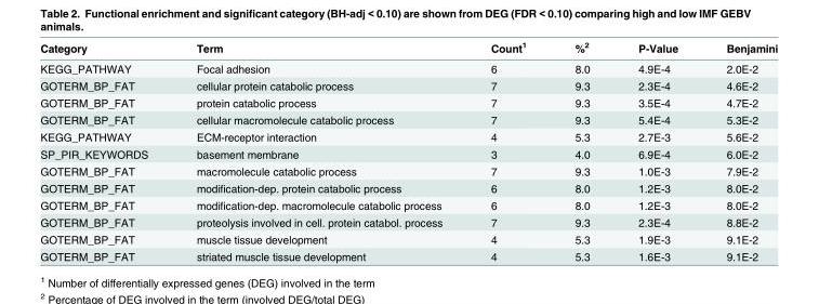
<table><thead><tr><td>Category</td><td>Term</td><td>Count<sup>1</sup></td><td>%<sup>2</sup></td><td>P-Value</td><td>Benjamini</td></tr></thead><tbody><tr><td>KEGG_PATHWAY</td><td>Focal adhesion</td><td>6</td><td>8.0</td><td>4.9E-4</td><td>2.0E-2</td></tr><tr><td>GOTERM_BP_FAT</td><td>cellular protein catabolic process</td><td>7</td><td>9.3</td><td>2.3E-4</td><td>4.6E-2</td></tr><tr><td>GOTERM_BP_FAT</td><td>protein catabolic process</td><td>7</td><td>9.3</td><td>3.5E-4</td><td>4.7E-2</td></tr><tr><td>GOTERM_BP_FAT</td><td>cellular macromolecule catabolic process</td><td>7</td><td>9.3</td><td>5.4E-4</td><td>5.3E-2</td></tr><tr><td>KEGG_PATHWAY</td><td>ECM-receptor interaction</td><td>4</td><td>5.3</td><td>2.7E-3</td><td>5.6E-2</td></tr><tr><td>SP_PIR_KEYWORDS</td><td>basement membrane</td><td>3</td><td>4.0</td><td>6.9E-4</td><td>6.0E-2</td></tr><tr><td>GOTERM_BP_FAT</td><td>macromolecule catabolic process</td><td>7</td><td>9.3</td><td>1.0E-3</td><td>7.9E-2</td></tr><tr><td>GOTERM_BP_FAT</td><td>modification-dep. protein catabolic process</td><td>6</td><td>8.0</td><td>1.2E-3</td><td>8.0E-2</td></tr><tr><td>GOTERM_BP_FAT</td><td>modification-dep. macromolecule catabolic process</td><td>6</td><td>8.0</td><td>1.2E-3</td><td>8.0E-2</td></tr><tr><td>GOTERM_BP_FAT</td><td>proteolysis involved in cell. protein catabol. process</td><td>7</td><td>9.3</td><td>2.3E-4</td><td>8.8E-2</td></tr><tr><td>GOTERM_BP_FAT</td><td>muscle tissue development</td><td>4</td><td>5.3</td><td>1.9E-3</td><td>9.1E-2</td></tr><tr><td>GOTERM_BP_FAT</td><td>striated muscle tissue development</td><td>4</td><td>5.3</td><td>1.6E-3</td><td>9.1E-2</td></tr></tbody></table>